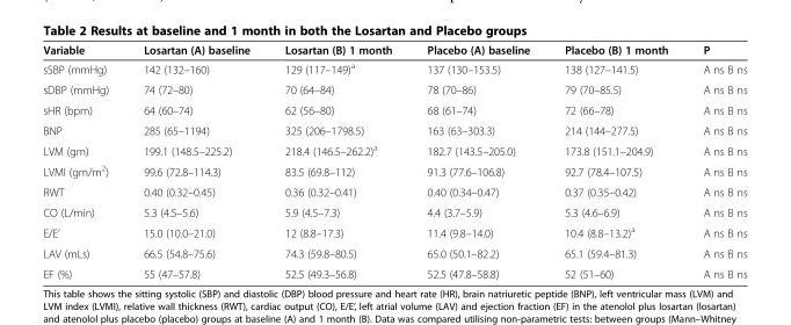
<table><thead><tr><td>Variable</td><td>Losartan (A) baseline</td><td>Losartan (B) 1 month</td><td>Placebo (A) baseline</td><td>Placebo (B) 1 month</td><td>P</td></tr></thead><tbody><tr><td>sSBP (mmHg)</td><td>142 (132–160)</td><td>129 (117–149)<sup>a</sup></td><td>137 (130–153.5)</td><td>138 (127–141.5)</td><td>A ns B ns</td></tr><tr><td>sDBP (mmHg)</td><td>74 (72–80)</td><td>70 (64–84)</td><td>78 (70–86)</td><td>79 (70–85.5)</td><td>A ns B ns</td></tr><tr><td>sHR (bpm)</td><td>64 (60–74)</td><td>62 (56–80)</td><td>68 (61–74)</td><td>72 (66–78)</td><td>A ns B ns</td></tr><tr><td>BNP</td><td>285 (65–1194)</td><td>325 (206–1798.5)</td><td>163 (63–303.3)</td><td>214 (144–277.5)</td><td>A ns B ns</td></tr><tr><td>LVM (gm)</td><td>199.1 (148.5–225.2)</td><td>218.4 (146.5–262.2)<sup>a</sup></td><td>182.7 (143.5–205.0)</td><td>173.8 (151.1–204.9)</td><td>A ns B ns</td></tr><tr><td>LVMI (gm/m<sup>2</sup>)</td><td>99.6 (72.8–114.3)</td><td>83.5 (69.8–112)</td><td>91.3 (77.6–106.8)</td><td>92.7 (78.4–107.5)</td><td>A ns B ns</td></tr><tr><td>RWT</td><td>0.40 (0.32–0.45)</td><td>0.36 (0.32–0.41)</td><td>0.40 (0.34–0.47)</td><td>0.37 (0.35–0.42)</td><td>A ns B ns</td></tr><tr><td>CO (L/min)</td><td>5.3 (4.5–5.6)</td><td>5.9 (4.5–7.3)</td><td>4.4 (3.7–5.9)</td><td>5.3 (4.6–6.9)</td><td>A ns B ns</td></tr><tr><td>E/E’</td><td>15.0 (10.0–21.0)</td><td>12 (8.8–17.3)</td><td>11.4 (9.8–14.0)</td><td>10.4 (8.8–13.2)<sup>a</sup></td><td>A ns B ns</td></tr><tr><td>LAV (mLs)</td><td>66.5 (54.8–75.6)</td><td>74.3 (59.8–80.5)</td><td>65.0 (50.1–82.2)</td><td>65.1 (59.4–81.3)</td><td>A ns B ns</td></tr><tr><td>EF (%)</td><td>55 (47–57.8)</td><td>52.5 (49.3–56.8)</td><td>52.5 (47.8–58.8)</td><td>52 (51–60)</td><td>A ns B ns</td></tr></tbody></table>